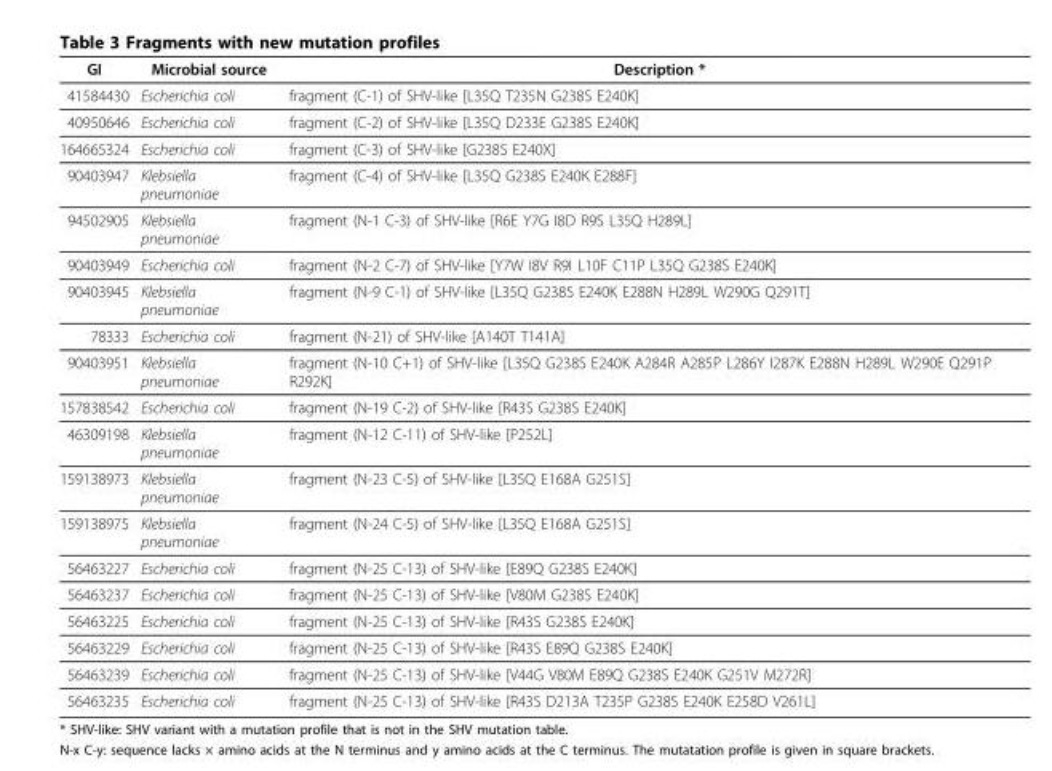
<table><thead><tr><td>GI</td><td>Microbial source</td><td>Description *</td></tr></thead><tbody><tr><td>41584430</td><td>Escherichia coli</td><td>fragment (C-1) of SHV-like [L35Q T235N G238S E240K]</td></tr><tr><td>40950646</td><td>Escherichia coli</td><td>fragment (C-2) of SHV-like [L35Q D233E G238S E240K]</td></tr><tr><td>164665324</td><td>Escherichia coli</td><td>fragment (C-3) of SHV-like [G238S E240X]</td></tr><tr><td>90403947</td><td>Klebsiella pneumoniae</td><td>fragment (C-4) of SHV-like [L35Q G238S E240K E288F]</td></tr><tr><td>94502905</td><td>Klebsiella pneumoniae</td><td>fragment (N-1 C-3) of SHV-like [R6E Y7G I8D R9S L35Q H289L]</td></tr><tr><td>90403949</td><td>Escherichia coli</td><td>fragment (N-2 C-7) of SHV-like [Y7W I8V R9I L10F C11P L35Q G238S E240K]</td></tr><tr><td>90403945</td><td>Klebsiella pneumoniae</td><td>fragment (N-9 C-1) of SHV-like [L35Q G238S E240K E288N H289L W290G Q291T]</td></tr><tr><td>78333</td><td>Escherichia coli</td><td>fragment (N-21) of SHV-like [A140T T141A]</td></tr><tr><td>90403951</td><td>Klebsiella pneumoniae</td><td>fragment (N-10 C+1) of SHV-like [L35Q G238S E240K A284R A285P L286Y I287K E288N H289L W290E Q291P R292K]</td></tr><tr><td>157838542</td><td>Escherichia coli</td><td>fragment (N-19 C-2) of SHV-like [R43S G238S E240K]</td></tr><tr><td>46309198</td><td>Klebsiella pneumoniae</td><td>fragment (N-12 C-11) of SHV-like [P252L]</td></tr><tr><td>159138973</td><td>Klebsiella pneumoniae</td><td>fragment (N-23 C-5) of SHV-like [L35Q E168A G251S]</td></tr><tr><td>159138975</td><td>Klebsiella pneumoniae</td><td>fragment (N-24 C-5) of SHV-like [L35Q E168A G251S]</td></tr><tr><td>56463227</td><td>Escherichia coli</td><td>fragment (N-25 C-13) of SHV-like [E89Q G238S E240K]</td></tr><tr><td>56463237</td><td>Escherichia coli</td><td>fragment (N-25 C-13) of SHV-like [V80M G238S E240K]</td></tr><tr><td>56463225</td><td>Escherichia coli</td><td>fragment (N-25 C-13) of SHV-like [R43S G238S E240K]</td></tr><tr><td>56463229</td><td>Escherichia coli</td><td>fragment (N-25 C-13) of SHV-like [R43S E89Q G238S E240K]</td></tr><tr><td>56463239</td><td>Escherichia coli</td><td>fragment (N-25 C-13) of SHV-like [V44G V80M E89Q G238S E240K G251V M272R]</td></tr><tr><td>56463235</td><td>Escherichia coli</td><td>fragment (N-25 C-13) of SHV-like [R43S D213A T235P G238S E240K E258D V261L]</td></tr></tbody></table>